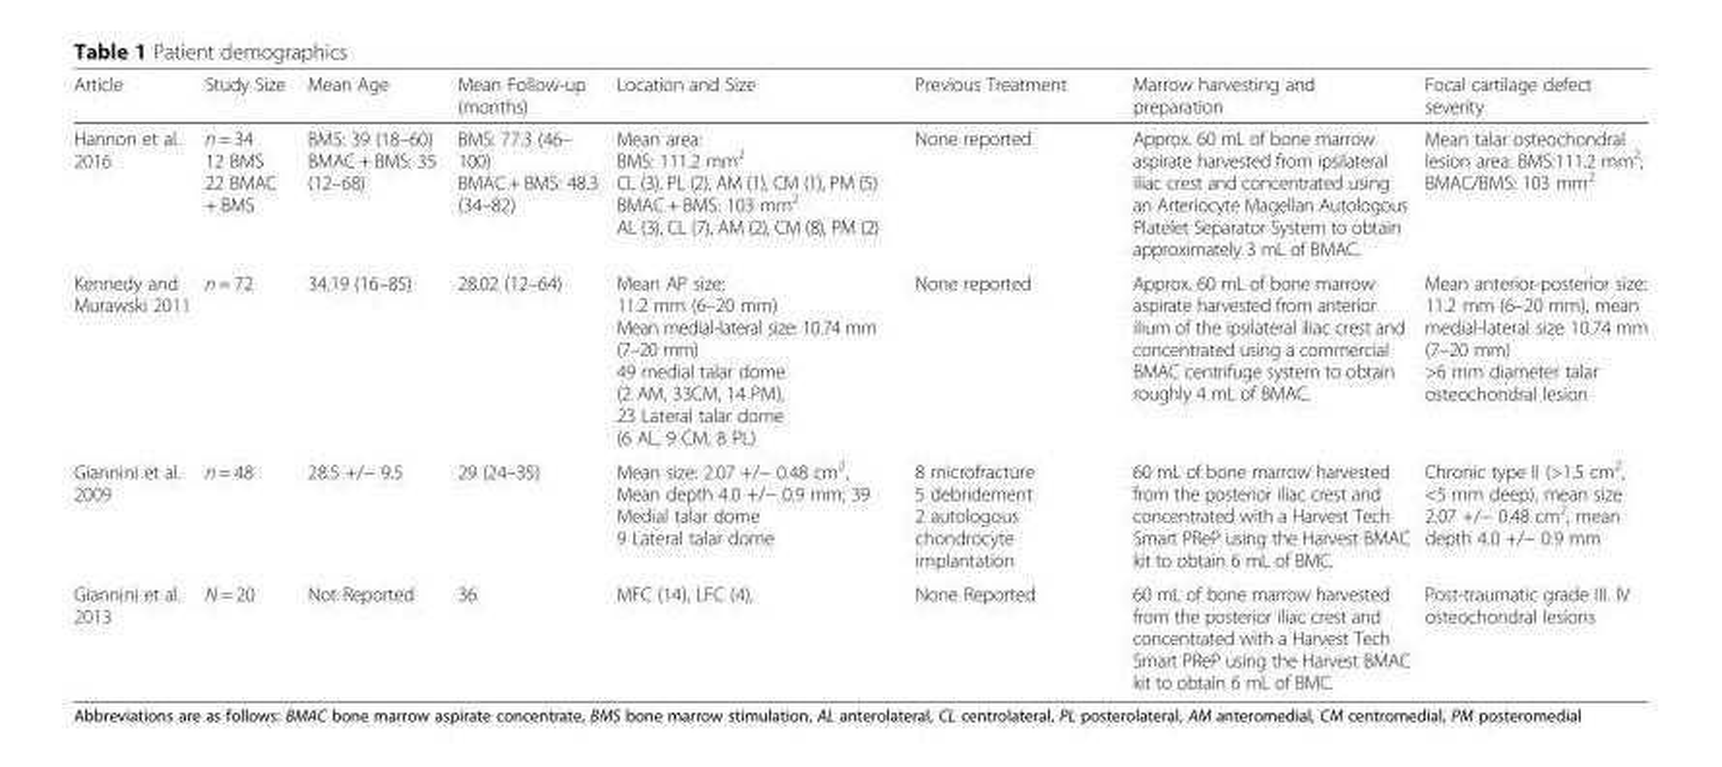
<table><thead><tr><td>Article</td><td>Study Size</td><td>Mean Age</td><td>Mean Follow-up (months)</td><td>Location and Size</td><td>Previous Treatment</td><td>Marrow harvesting and preparation</td><td>Focal cartilage defect severity</td></tr></thead><tbody><tr><td>Hannon et al. 2016</td><td>n = 34 12 BMS 22 BMAC + BMS</td><td>BMS: 39 (18–60) BMAC + BMS: 35 (12–68)</td><td>BMS: 77.3 (46– 100) BMAC + BMS: 48.3 (34–82)</td><td>Mean area: BMS: 111.2 mm<sup>2</sup> CL (3), PL (2), AM (1), CM (1), PM (5) BMAC + BMS: 103 mm<sup>2</sup> AL (3), CL (7), AM (2), CM (8), PM (2)</td><td>None reported</td><td>Approx. 60 mL of bone marrow aspirate harvested from ipsilateral iliac crest and concentrated using an Arteriocyte Magellan Autologous Platelet Separator System to obtain approximately 3 mL of BMAC.</td><td>Mean talar osteochondral lesion area: BMS:111.2 mm<sup>2</sup>; BMAC/BMS: 103 mm<sup>2</sup></td></tr><tr><td>Kennedy and Murawski 2011</td><td>n = 72</td><td>34.19 (16–85)</td><td>28.02 (12–64)</td><td>Mean AP size: 11.2 mm (6–20 mm) Mean medial-lateral size: 10.74 mm (7–20 mm) 49 medial talar dome (2 AM, 33CM, 14 PM), 23 Lateral talar dome (6 AL, 9 CM, 8 PL)</td><td>None reported</td><td>Approx. 60 mL of bone marrow aspirate harvested from anterior ilium of the ipsilateral iliac crest and concentrated using a commercial BMAC centrifuge system to obtain roughly 4 mL of BMAC.</td><td>Mean anterior-posterior size: 11.2 mm (6–20 mm), mean medial-lateral size 10.74 mm (7–20 mm) &gt;6 mm diameter talar osteochondral lesion</td></tr><tr><td>Giannini et al. 2009</td><td>n = 48</td><td>28.5 +/− 9.5</td><td>29 (24–35)</td><td>Mean size: 2.07 +/− 0.48 cm<sup>2</sup>, Mean depth 4.0 +/− 0.9 mm; 39 Medial talar dome 9 Lateral talar dome</td><td>8 microfracture 5 debridement 2 autologous chondrocyte implantation</td><td>60 mL of bone marrow harvested from the posterior iliac crest and concentrated with a Harvest Tech Smart PReP using the Harvest BMAC kit to obtain 6 mL of BMC.</td><td>Chronic type II (&gt;1.5 cm<sup>2</sup>, &lt;5 mm deep), mean size 2.07 +/− 0.48 cm<sup>2</sup>, mean depth 4.0 +/− 0.9 mm</td></tr><tr><td>Giannini et al. 2013</td><td>N = 20</td><td>Not Reported</td><td>36</td><td>MFC (14), LFC (4),</td><td>None Reported</td><td>60 mL of bone marrow harvested from the posterior iliac crest and concentrated with a Harvest Tech Smart PReP using the Harvest BMAC kit to obtain 6 mL of BMC.</td><td>Post-traumatic grade III. IV osteochondral lesions</td></tr></tbody></table>